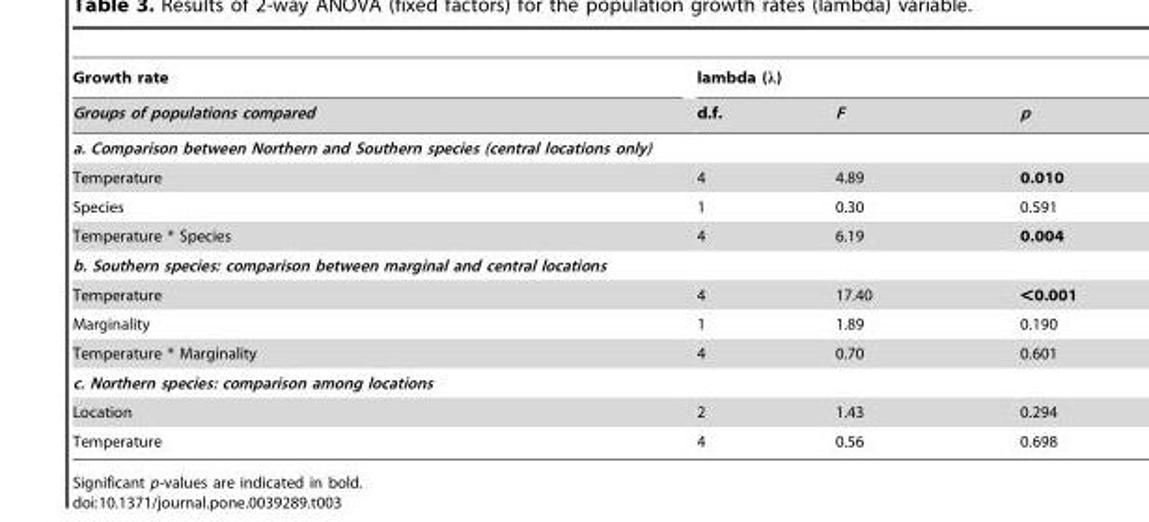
<table><thead><tr><td rowspan="2">Growth rate Groups of populations compared</td><td colspan="3">lambda (λ)</td></tr><tr><td>d.f.</td><td>F</td><td>p</td></tr></thead><tbody><tr><td colspan="4">a. Comparison between Northern and Southern species (central locations only)</td></tr><tr><td>Temperature</td><td>4</td><td>4.89</td><td>0.010</td></tr><tr><td>Species</td><td>1</td><td>0.30</td><td>0.591</td></tr><tr><td>Temperature * Species</td><td>4</td><td>6.19</td><td>0.004</td></tr><tr><td colspan="4">b. Southern species: comparison between marginal and central locations</td></tr><tr><td>Temperature</td><td>4</td><td>17.40</td><td>&lt;0.001</td></tr><tr><td>Marginality</td><td>1</td><td>1.89</td><td>0.190</td></tr><tr><td>Temperature * Marginality</td><td>4</td><td>0.70</td><td>0.601</td></tr><tr><td colspan="4">c. Northern species: comparison among locations</td></tr><tr><td>Location</td><td>2</td><td>1.43</td><td>0.294</td></tr><tr><td>Temperature</td><td>4</td><td>0.56</td><td>0.698</td></tr></tbody></table>